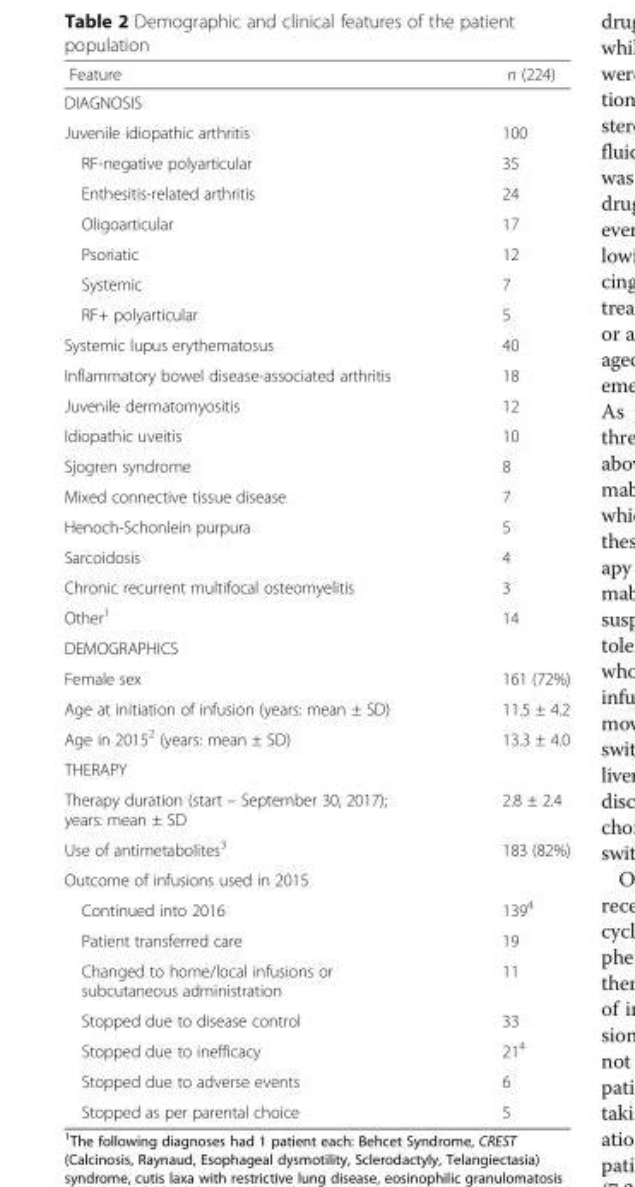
<table><thead><tr><td>Feature</td><td>n (224)</td></tr></thead><tbody><tr><td colspan="2">DIAGNOSIS</td></tr><tr><td>Juvenile idiopathic arthritis</td><td>100</td></tr><tr><td>RF-negative polyarticular</td><td>35</td></tr><tr><td>Enthesitis-related arthritis</td><td>24</td></tr><tr><td>Oligoarticular</td><td>17</td></tr><tr><td>Psoriatic</td><td>12</td></tr><tr><td>Systemic</td><td>7</td></tr><tr><td>RF+ polyarticular</td><td>5</td></tr><tr><td>Systemic lupus erythematosus</td><td>40</td></tr><tr><td>Inflammatory bowel disease-associated arthritis</td><td>18</td></tr><tr><td>Juvenile dermatomyositis</td><td>12</td></tr><tr><td>Idiopathic uveitis</td><td>10</td></tr><tr><td>Sjogren syndrome</td><td>8</td></tr><tr><td>Mixed connective tissue disease</td><td>7</td></tr><tr><td>Henoch-Schonlein purpura</td><td>5</td></tr><tr><td>Sarcoidosis</td><td>4</td></tr><tr><td>Chronic recurrent multifocal osteomyelitis</td><td>3</td></tr><tr><td>Other<sup>1</sup></td><td>14</td></tr><tr><td colspan="2">DEMOGRAPHICS</td></tr><tr><td>Female sex</td><td>161 (72%)</td></tr><tr><td>Age at initiation of infusion (years: mean ± SD)</td><td>11.5 ± 4.2</td></tr><tr><td>Age in 2015<sup>2</sup> (years: mean ± SD)</td><td>13.3 ± 4.0</td></tr><tr><td colspan="2">THERAPY</td></tr><tr><td>Therapy duration (start – September 30, 2017); years: mean ± SD</td><td>2.8 ± 2.4</td></tr><tr><td>Use of antimetabolites<sup>3</sup></td><td>183 (82%)</td></tr><tr><td colspan="2">Outcome of infusions used in 2015</td></tr><tr><td>Continued into 2016</td><td>139<sup>4</sup></td></tr><tr><td>Patient transferred care</td><td>19</td></tr><tr><td>Changed to home/local infusions or subcutaneous administration</td><td>11</td></tr><tr><td>Stopped due to disease control</td><td>33</td></tr><tr><td>Stopped due to inefficacy</td><td>21<sup>4</sup></td></tr><tr><td>Stopped due to adverse events</td><td>6</td></tr><tr><td>Stopped as per parental choice</td><td>5</td></tr></tbody></table>